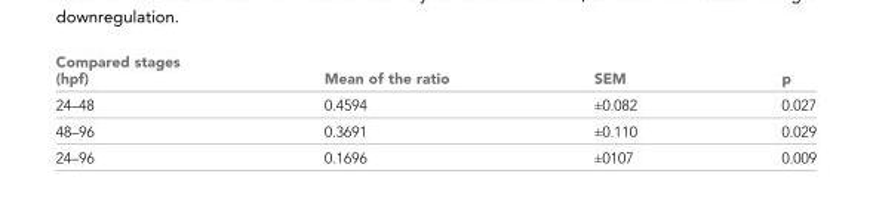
<table><thead><tr><td>Compared stages (hpf)</td><td>Mean of the ratio</td><td>SEM</td><td>p</td></tr></thead><tbody><tr><td>24–48</td><td>0.4594</td><td>±0.082</td><td>0.027</td></tr><tr><td>48–96</td><td>0.3691</td><td>±0.110</td><td>0.029</td></tr><tr><td>24–96</td><td>0.1696</td><td>±0107</td><td>0.009</td></tr></tbody></table>